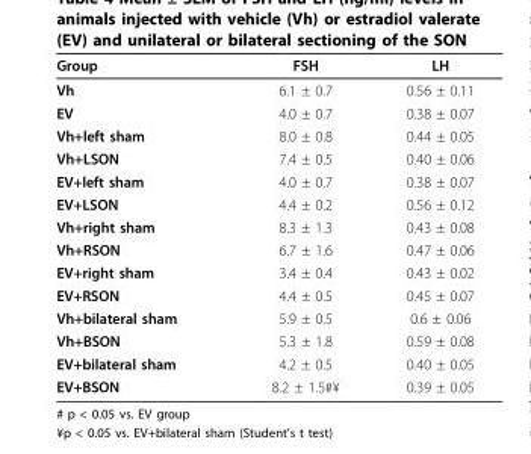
<table><thead><tr><td>Group</td><td>FSH</td><td>LH</td></tr></thead><tbody><tr><td>Vh</td><td>6.1 ± 0.7</td><td>0.56 ± 0.11</td></tr><tr><td>EV</td><td>4.0 ± 0.7</td><td>0.38 ± 0.07</td></tr><tr><td>Vh+left sham</td><td>8.0 ± 0.8</td><td>0.44 ± 0.05</td></tr><tr><td>Vh+LSON</td><td>7.4 ± 0.5</td><td>0.40 ± 0.06</td></tr><tr><td>EV+left sham</td><td>4.0 ± 0.7</td><td>0.38 ± 0.07</td></tr><tr><td>EV+LSON</td><td>4.4 ± 0.2</td><td>0.56 ± 0.12</td></tr><tr><td>Vh+right sham</td><td>8.3 ± 1.3</td><td>0.43 ± 0.08</td></tr><tr><td>Vh+RSON</td><td>6.7 ± 1.6</td><td>0.47 ± 0.06</td></tr><tr><td>EV+right sham</td><td>3.4 ± 0.4</td><td>0.43 ± 0.02</td></tr><tr><td>EV+RSON</td><td>4.4 ± 0.5</td><td>0.45 ± 0.07</td></tr><tr><td>Vh+bilateral sham</td><td>5.9 ± 0.5</td><td>0.6 ± 0.06</td></tr><tr><td>Vh+BSON</td><td>5.3 ± 1.8</td><td>0.59 ± 0.08</td></tr><tr><td>EV+bilateral sham</td><td>4.2 ± 0.5</td><td>0.40 ± 0.05</td></tr><tr><td>EV+BSON</td><td>8.2 ± 1.5#¥</td><td>0.39 ± 0.05</td></tr></tbody></table>